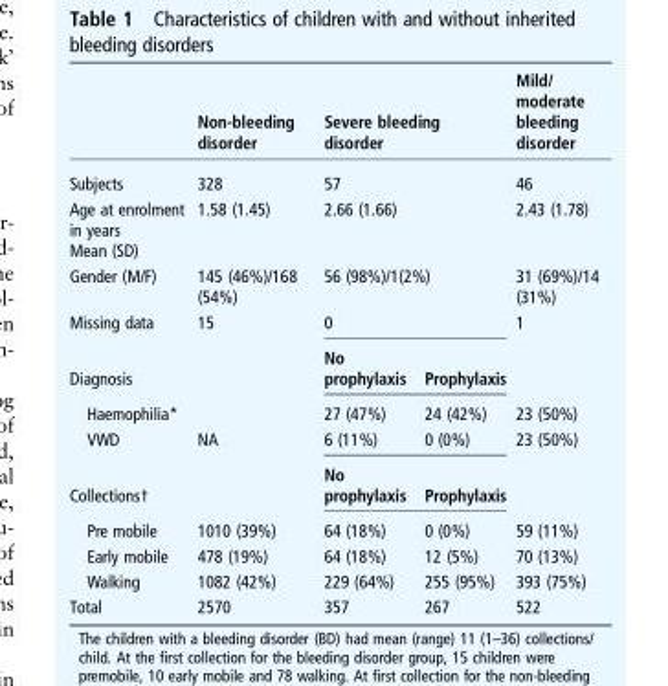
<table><thead><tr><td></td><td>Non-bleeding disorder</td><td colspan="2">Severe bleeding disorder</td><td>Mild/ moderate bleeding disorder</td></tr></thead><tbody><tr><td>Subjects</td><td>328</td><td colspan="2">57</td><td>46</td></tr><tr><td>Age at enrolment in years Mean (SD)</td><td>1.58 (1.45)</td><td colspan="2">2.66 (1.66)</td><td>2.43 (1.78)</td></tr><tr><td>Gender (M/F)</td><td>145 (46%)/168 (54%)</td><td colspan="2">56 (98%)/1(2%)</td><td>31 (69%)/14 (31%)</td></tr><tr><td>Missing data</td><td>15</td><td colspan="2">0</td><td>1</td></tr><tr><td>Diagnosis</td><td></td><td>No prophylaxis</td><td>Prophylaxis</td><td></td></tr><tr><td>Haemophilia*</td><td></td><td>27 (47%)</td><td>24 (42%)</td><td>23 (50%)</td></tr><tr><td>VWD</td><td>NA</td><td>6 (11%)</td><td>0 (0%)</td><td>23 (50%)</td></tr><tr><td>Collections†</td><td></td><td>No prophylaxis</td><td>Prophylaxis</td><td></td></tr><tr><td>Pre mobile</td><td>1010 (39%)</td><td>64 (18%)</td><td>0 (0%)</td><td>59 (11%)</td></tr><tr><td>Early mobile</td><td>478 (19%)</td><td>64 (18%)</td><td>12 (5%)</td><td>70 (13%)</td></tr><tr><td>Walking</td><td>1082 (42%)</td><td>229 (64%)</td><td>255 (95%)</td><td>393 (75%)</td></tr><tr><td>Total</td><td>2570</td><td>357</td><td>267</td><td>522</td></tr></tbody></table>